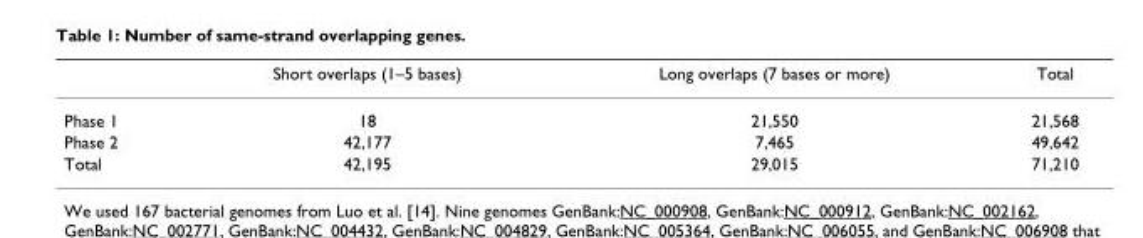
<table><thead><tr><td></td><td>Short overlaps (1–5 bases)</td><td>Long overlaps (7 bases or more)</td><td>Total</td></tr></thead><tbody><tr><td>Phase 1</td><td>18</td><td>21,550</td><td>21,568</td></tr><tr><td>Phase 2</td><td>42,177</td><td>7,465</td><td>49,642</td></tr><tr><td>Total</td><td>42,195</td><td>29,015</td><td>71,210</td></tr></tbody></table>